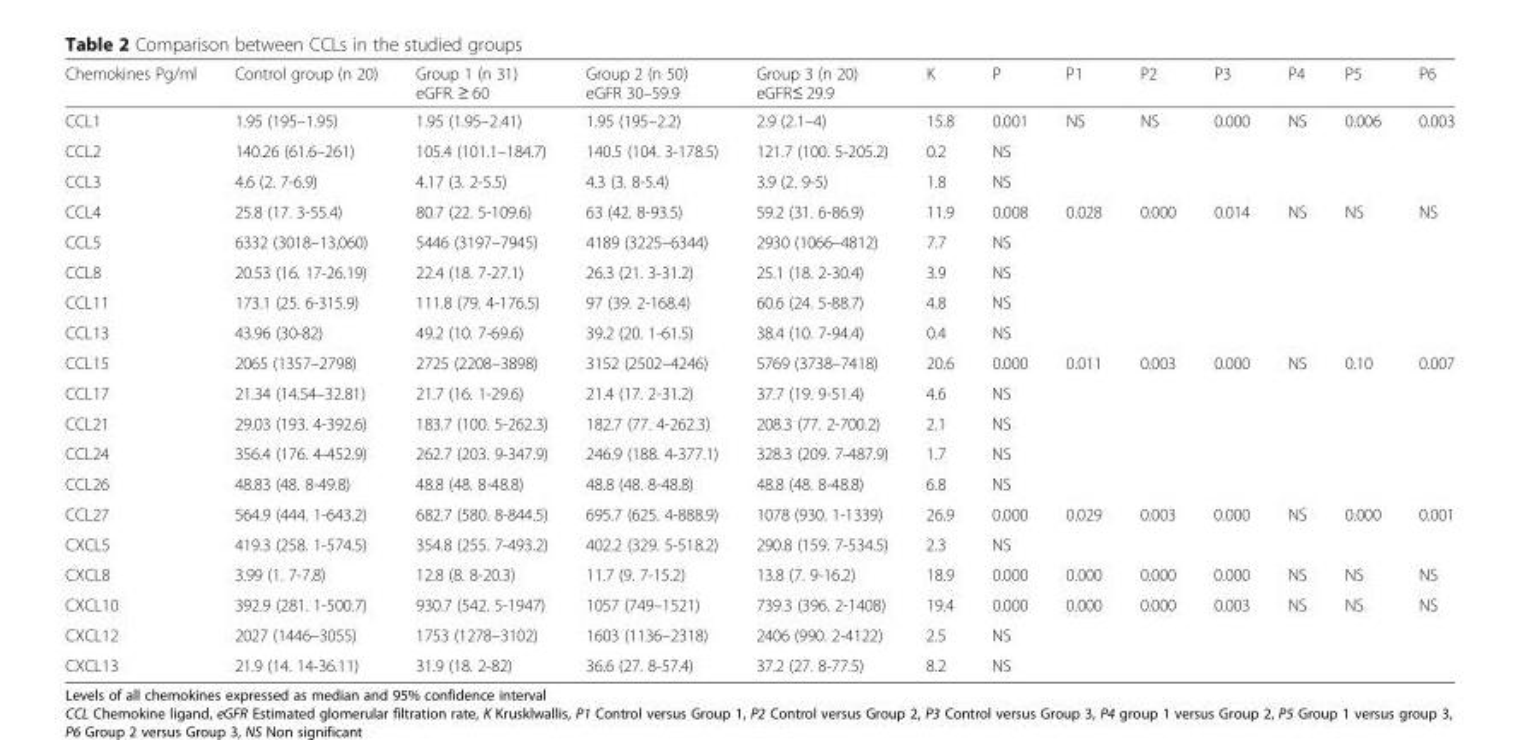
<table><thead><tr><td>Chemokines Pg/ml</td><td>Control group (n 20)</td><td>Group 1 (n 31) eGFR. ≥ 60</td><td>Group 2 (n 50) eGFR 30–59.9</td><td>Group 3 (n 20) eGFR≤ 29.9</td><td>K</td><td>P</td><td>P1</td><td>P2</td><td>P3</td><td>P4</td><td>P5</td><td>P6</td></tr></thead><tbody><tr><td>CCL1</td><td>1.95 (195–1.95)</td><td>1.95 (1.95–2.41)</td><td>1.95 (195–2.2)</td><td>2.9 (2.1–4)</td><td>15.8</td><td>0.001</td><td>NS</td><td>NS</td><td>0.000</td><td>NS</td><td>0.006</td><td>0.003</td></tr><tr><td>CCL2</td><td>140.26 (61.6–261)</td><td>105.4 (101.1–184.7)</td><td>140.5 (104. 3-178.5)</td><td>121.7 (100. 5-205.2)</td><td>0.2</td><td>NS</td><td></td><td></td><td></td><td></td><td></td><td></td></tr><tr><td>CCL3</td><td>4.6 (2. 7-6.9)</td><td>4.17 (3. 2-5.5)</td><td>4.3 (3. 8-5.4)</td><td>3.9 (2. 9-5)</td><td>1.8</td><td>NS</td><td></td><td></td><td></td><td></td><td></td><td></td></tr><tr><td>CCL4</td><td>25.8 (17. 3-55.4)</td><td>80.7 (22. 5-109.6)</td><td>63 (42. 8-93.5)</td><td>59.2 (31. 6-86.9)</td><td>11.9</td><td>0.008</td><td>0.028</td><td>0.000</td><td>0.014</td><td>NS</td><td>NS</td><td>NS</td></tr><tr><td>CCL5</td><td>6332 (3018–13,060)</td><td>5446 (3197–7945)</td><td>4189 (3225–6344)</td><td>2930 (1066–4812)</td><td>7.7</td><td>NS</td><td></td><td></td><td></td><td></td><td></td><td></td></tr><tr><td>CCL8</td><td>20.53 (16. 17-26.19)</td><td>22.4 (18. 7-27.1)</td><td>26.3 (21. 3-31.2)</td><td>25.1 (18. 2-30.4)</td><td>3.9</td><td>NS</td><td></td><td></td><td></td><td></td><td></td><td></td></tr><tr><td>CCL11</td><td>173.1 (25. 6-315.9)</td><td>111.8 (79. 4-176.5)</td><td>97 (39. 2-168.4)</td><td>60.6 (24. 5-88.7)</td><td>4.8</td><td>NS</td><td></td><td></td><td></td><td></td><td></td><td></td></tr><tr><td>CCL13</td><td>43.96 (30-82)</td><td>49.2 (10. 7-69.6)</td><td>39.2 (20. 1-61.5)</td><td>38.4 (10. 7-94.4)</td><td>0.4</td><td>NS</td><td></td><td></td><td></td><td></td><td></td><td></td></tr><tr><td>CCL15</td><td>2065 (1357–2798)</td><td>2725 (2208–3898)</td><td>3152 (2502–4246)</td><td>5769 (3738–7418)</td><td>20.6</td><td>0.000</td><td>0.011</td><td>0.003</td><td>0.000</td><td>NS</td><td>0.10</td><td>0.007</td></tr><tr><td>CCL17</td><td>21.34 (14.54–32.81)</td><td>21.7 (16. 1-29.6)</td><td>21.4 (17. 2-31.2)</td><td>37.7 (19. 9-51.4)</td><td>4.6</td><td>NS</td><td></td><td></td><td></td><td></td><td></td><td></td></tr><tr><td>CCL21</td><td>29.03 (193. 4-392.6)</td><td>183.7 (100. 5-262.3)</td><td>182.7 (77. 4-262.3)</td><td>208.3 (77. 2-700.2)</td><td>2.1</td><td>NS</td><td></td><td></td><td></td><td></td><td></td><td></td></tr><tr><td>CCL24</td><td>356.4 (176. 4-452.9)</td><td>262.7 (203. 9-347.9)</td><td>246.9 (188. 4-377.1)</td><td>328.3 (209. 7-487.9)</td><td>1.7</td><td>NS</td><td></td><td></td><td></td><td></td><td></td><td></td></tr><tr><td>CCL26</td><td>48.83 (48. 8-49.8)</td><td>48.8 (48. 8-48.8)</td><td>48.8 (48. 8-48.8)</td><td>48.8 (48. 8-48.8)</td><td>6.8</td><td>NS</td><td></td><td></td><td></td><td></td><td></td><td></td></tr><tr><td>CCL27</td><td>564.9 (444. 1-643.2)</td><td>682.7 (580. 8-844.5)</td><td>695.7 (625. 4-888.9)</td><td>1078 (930. 1-1339)</td><td>26.9</td><td>0.000</td><td>0.029</td><td>0.003</td><td>0.000</td><td>NS</td><td>0.000</td><td>0.001</td></tr><tr><td>CXCL5</td><td>419.3 (258. 1-574.5)</td><td>354.8 (255. 7-493.2)</td><td>402.2 (329. 5-518.2)</td><td>290.8 (159. 7-534.5)</td><td>2.3</td><td>NS</td><td></td><td></td><td></td><td></td><td></td><td></td></tr><tr><td>CXCL8</td><td>3.99 (1. 7-7.8)</td><td>12.8 (8. 8-20.3)</td><td>11.7 (9. 7-15.2)</td><td>13.8 (7. 9-16.2)</td><td>18.9</td><td>0.000</td><td>0.000</td><td>0.000</td><td>0.000</td><td>NS</td><td>NS</td><td>NS</td></tr><tr><td>CXCL10</td><td>392.9 (281. 1-500.7)</td><td>930.7 (542. 5-1947)</td><td>1057 (749–1521)</td><td>739.3 (396. 2-1408)</td><td>19.4</td><td>0.000</td><td>0.000</td><td>0.000</td><td>0.003</td><td>NS</td><td>NS</td><td>NS</td></tr><tr><td>CXCL12</td><td>2027 (1446–3055)</td><td>1753 (1278–3102)</td><td>1603 (1136–2318)</td><td>2406 (990. 2-4122)</td><td>2.5</td><td>NS</td><td></td><td></td><td></td><td></td><td></td><td></td></tr><tr><td>CXCL13</td><td>21.9 (14. 14-36.11)</td><td>31.9 (18. 2-82)</td><td>36.6 (27. 8-57.4)</td><td>37.2 (27. 8-77.5)</td><td>8.2</td><td>NS</td><td></td><td></td><td></td><td></td><td></td><td></td></tr></tbody></table>